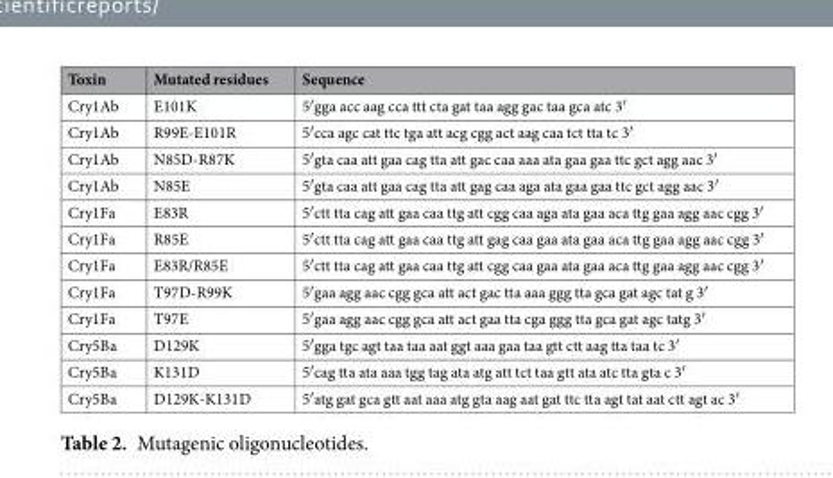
<table><thead><tr><td>Toxin</td><td>Mutated residues</td><td>Sequence</td></tr></thead><tbody><tr><td>Cry1Ab</td><td>E101K</td><td>5′gga acc aag cca ttt cta gat taa agg gac taa gca atc 3′</td></tr><tr><td>Cry1Ab</td><td>R99E-E101R</td><td>5′cca agc cat ttc tga att acg cgg act aag caa tct tta tc 3′</td></tr><tr><td>Cry1Ab</td><td>N85D-R87K</td><td>5′gta caa att gaa cag tta att gac caa aaa ata gaa gaa ttc gct agg aac 3′</td></tr><tr><td>Cry1Ab</td><td>N85E</td><td>5′gta caa att gaa cag tta att gag caa aga ata gaa gaa ttc gct agg aac 3′</td></tr><tr><td>Cry1Fa</td><td>E83R</td><td>5′ctt tta cag att gaa caa ttg att cgg caa aga ata gaa aca ttg gaa agg aac cgg 3′</td></tr><tr><td>Cry1Fa</td><td>R85E</td><td>5′ctt tta cag att gaa caa ttg att gag caa gaa ata gaa aca ttg gaa agg aac cgg 3′</td></tr><tr><td>Cry1Fa</td><td>E83R/R85E</td><td>5′ctt tta cag att gaa caa ttg att cgg caa gaa ata gaa aca ttg gaa agg aac cgg 3′</td></tr><tr><td>Cry1Fa</td><td>T97D-R99K</td><td>5′gaa agg aac cgg gca att act gac tta aaa ggg tta gca gat agc tat g 3′</td></tr><tr><td>Cry1Fa</td><td>T97E</td><td>5′gaa agg aac cgg gca att act gaa tta cga ggg tta gca gat agc tatg 3′</td></tr><tr><td>Cry5Ba</td><td>D129K</td><td>5′gga tgc agt taa taa aat ggt aaa gaa taa gtt ctt aag tta taa tc 3′</td></tr><tr><td>Cry5Ba</td><td>K131D</td><td>5′cag tta ata aaa tgg tag ata atg att tct taa gtt ata atc tta gta c 3′</td></tr><tr><td>Cry5Ba</td><td>D129K-K131D</td><td>5′atg gat gca gtt aat aaa atg gta aag aat gat ttc tta agt tat aat ctt agt ac 3′</td></tr></tbody></table>